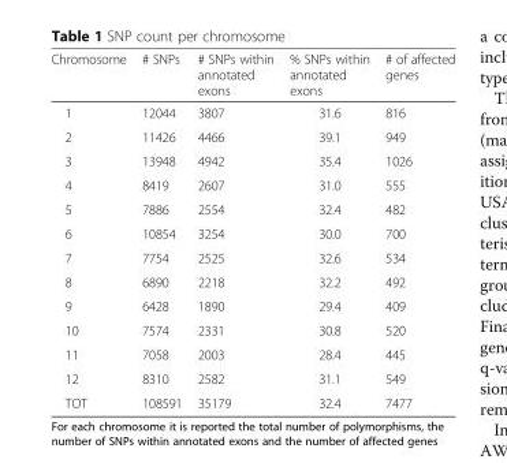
<table><thead><tr><td>Chromosome</td><td># SNPs</td><td># SNPs within annotated exons</td><td>% SNPs within annotated exons</td><td># of affected genes</td></tr></thead><tbody><tr><td>1</td><td>12044</td><td>3807</td><td>31.6</td><td>816</td></tr><tr><td>2</td><td>11426</td><td>4466</td><td>39.1</td><td>949</td></tr><tr><td>3</td><td>13948</td><td>4942</td><td>35.4</td><td>1026</td></tr><tr><td>4</td><td>8419</td><td>2607</td><td>31.0</td><td>555</td></tr><tr><td>5</td><td>7886</td><td>2554</td><td>32.4</td><td>482</td></tr><tr><td>6</td><td>10854</td><td>3254</td><td>30.0</td><td>700</td></tr><tr><td>7</td><td>7754</td><td>2525</td><td>32.6</td><td>534</td></tr><tr><td>8</td><td>6890</td><td>2218</td><td>32.2</td><td>492</td></tr><tr><td>9</td><td>6428</td><td>1890</td><td>29.4</td><td>409</td></tr><tr><td>10</td><td>7574</td><td>2331</td><td>30.8</td><td>520</td></tr><tr><td>11</td><td>7058</td><td>2003</td><td>28.4</td><td>445</td></tr><tr><td>12</td><td>8310</td><td>2582</td><td>31.1</td><td>549</td></tr><tr><td>TOT</td><td>108591</td><td>35179</td><td>32.4</td><td>7477</td></tr></tbody></table>